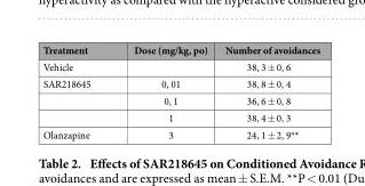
<table><thead><tr><td>Treatment</td><td>Dose (mg/kg, po)</td><td>Number of avoidances</td></tr></thead><tbody><tr><td>Vehicle</td><td></td><td>38, 3 ± 0, 6</td></tr><tr><td rowspan="3">SAR218645</td><td>0, 01</td><td>38, 8 ± 0, 4</td></tr><tr><td>0, 1</td><td>36, 6 ± 0, 8</td></tr><tr><td>1</td><td>38, 4 ± 0, 3</td></tr><tr><td>Olanzapine</td><td>3</td><td>24, 1 ± 2, 9**</td></tr></tbody></table>